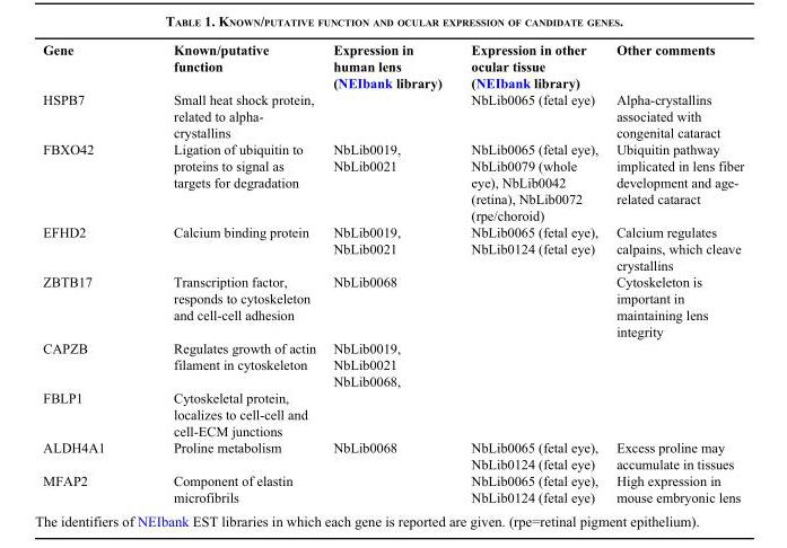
<table><thead><tr><td>Gene</td><td>Known/putative function</td><td>Expression in human lens (NEIbank library)</td><td>Expression in other ocular tissue (NEIbank library)</td><td>Other comments</td></tr></thead><tbody><tr><td>HSPB7</td><td>Small heat shock protein, related to alpha- crystallins</td><td></td><td>NbLib0065 (fetal eye)</td><td>Alpha-crystallins associated with congenital cataract</td></tr><tr><td>FBXO42</td><td>Ligation of ubiquitin to proteins to signal as targets for degradation</td><td>NbLib0019, NbLib0021</td><td>NbLib0065 (fetal eye), NbLib0079 (whole eye), NbLib0042 (retina), NbLib0072 (rpe/choroid)</td><td>Ubiquitin pathway implicated in lens fiber development and age- related cataract</td></tr><tr><td>EFHD2</td><td>Calcium binding protein</td><td>NbLib0019, NbLib0021</td><td>NbLib0065 (fetal eye), NbLib0124 (fetal eye)</td><td>Calcium regulates calpains, which cleave crystallins</td></tr><tr><td>ZBTB17</td><td>Transcription factor, responds to cytoskeleton and cell-cell adhesion</td><td>NbLib0068</td><td></td><td>Cytoskeleton is important in maintaining lens integrity</td></tr><tr><td>CAPZB</td><td>Regulates growth of actin filament in cytoskeleton</td><td>NbLib0019, NbLib0021 NbLib0068,</td><td></td><td></td></tr><tr><td>FBLP1</td><td>Cytoskeletal protein, localizes to cell-cell and cell-ECM junctions</td><td></td><td></td><td></td></tr><tr><td>ALDH4A1</td><td>Proline metabolism</td><td>NbLib0068</td><td>NbLib0065 (fetal eye), NbLib0124 (fetal eye)</td><td>Excess proline may accumulate in tissues</td></tr><tr><td>MFAP2</td><td>Component of elastin microfibrils</td><td></td><td>NbLib0065 (fetal eye), NbLib0124 (fetal eye)</td><td>High expression in mouse embryonic lens</td></tr></tbody></table>